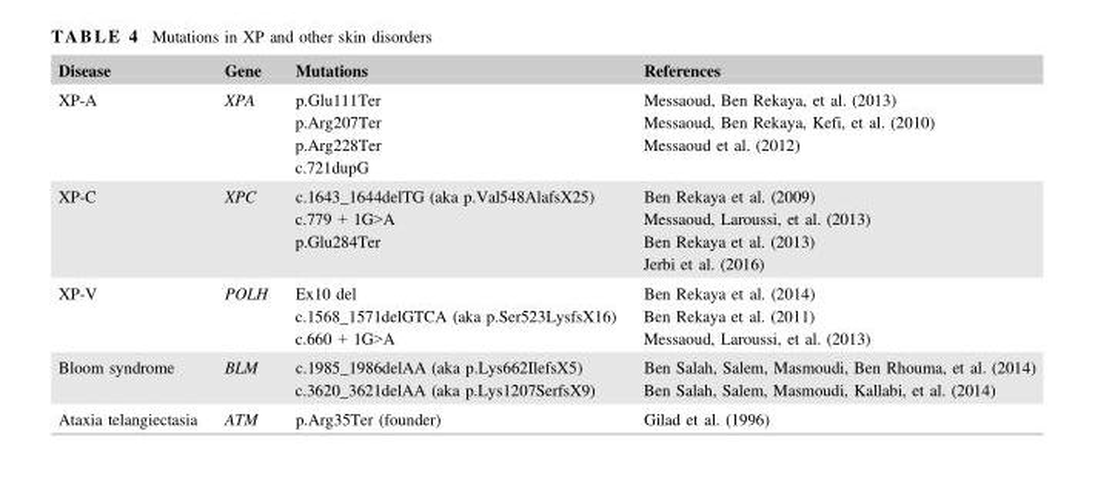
<table><thead><tr><td>Disease</td><td>Gene</td><td>Mutations</td><td>References</td></tr></thead><tbody><tr><td>XP-A</td><td>XPA</td><td>p.Glu111Ter p.Arg207Ter p.Arg228Ter c.721dupG</td><td>Messaoud, Ben Rekaya, et al. (2013) Messaoud, Ben Rekaya, Kefi, et al. (2010) Messaoud et al. (2012)</td></tr><tr><td>XP-C</td><td>XPC</td><td>c.1643_1644delTG (aka p.Val548AlafsX25) c.779 + 1G&gt;A p.Glu284Ter</td><td>Ben Rekaya et al. (2009) Messaoud, Laroussi, et al. (2013) Ben Rekaya et al. (2013) Jerbi et al. (2016)</td></tr><tr><td>XP-V</td><td>POLH</td><td>Ex10 del c.1568_1571delGTCA (aka p.Ser523LysfsX16) c.660 + 1G&gt;A</td><td>Ben Rekaya et al. (2014) Ben Rekaya et al. (2011) Messaoud, Laroussi, et al. (2013)</td></tr><tr><td>Bloom syndrome</td><td>BLM</td><td>c.1985_1986delAA (aka p.Lys662IlefsX5) c.3620_3621delAA (aka p.Lys1207SerfsX9)</td><td>Ben Salah, Salem, Masmoudi, Ben Rhouma, et al. (2014) Ben Salah, Salem, Masmoudi, Kallabi, et al. (2014)</td></tr><tr><td>Ataxia telangiectasia</td><td>ATM</td><td>p.Arg35Ter (founder)</td><td>Gilad et al. (1996)</td></tr></tbody></table>